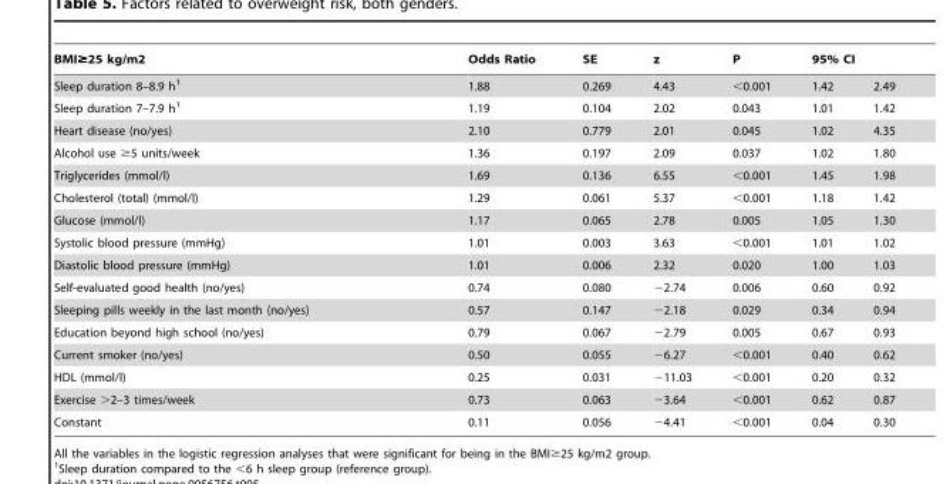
<table><thead><tr><td rowspan="2">BMI≥25 kg/m2 Sleep duration 8–8.9 h<sup>1</sup></td><td rowspan="2">Odds Ratio 1.88</td><td rowspan="2">SE 0.269</td><td rowspan="2">z 4.43</td><td rowspan="2">P &lt;0.001</td><td colspan="2">95% CI</td></tr><tr><td>1.42</td><td>2.49</td></tr></thead><tbody><tr><td>Sleep duration 7–7.9 h<sup>1</sup></td><td>1.19</td><td>0.104</td><td>2.02</td><td>0.043</td><td>1.01</td><td>1.42</td></tr><tr><td>Heart disease (no/yes)</td><td>2.10</td><td>0.779</td><td>2.01</td><td>0.045</td><td>1.02</td><td>4.35</td></tr><tr><td>Alcohol use ≥5 units/week</td><td>1.36</td><td>0.197</td><td>2.09</td><td>0.037</td><td>1.02</td><td>1.80</td></tr><tr><td>Triglycerides (mmol/l)</td><td>1.69</td><td>0.136</td><td>6.55</td><td>&lt;0.001</td><td>1.45</td><td>1.98</td></tr><tr><td>Cholesterol (total) (mmol/l)</td><td>1.29</td><td>0.061</td><td>5.37</td><td>&lt;0.001</td><td>1.18</td><td>1.42</td></tr><tr><td>Glucose (mmol/l)</td><td>1.17</td><td>0.065</td><td>2.78</td><td>0.005</td><td>1.05</td><td>1.30</td></tr><tr><td>Systolic blood pressure (mmHg)</td><td>1.01</td><td>0.003</td><td>3.63</td><td>&lt;0.001</td><td>1.01</td><td>1.02</td></tr><tr><td>Diastolic blood pressure (mmHg)</td><td>1.01</td><td>0.006</td><td>2.32</td><td>0.020</td><td>1.00</td><td>1.03</td></tr><tr><td>Self-evaluated good health (no/yes)</td><td>0.74</td><td>0.080</td><td>−2.74</td><td>0.006</td><td>0.60</td><td>0.92</td></tr><tr><td>Sleeping pills weekly in the last month (no/yes)</td><td>0.57</td><td>0.147</td><td>−2.18</td><td>0.029</td><td>0.34</td><td>0.94</td></tr><tr><td>Education beyond high school (no/yes)</td><td>0.79</td><td>0.067</td><td>−2.79</td><td>0.005</td><td>0.67</td><td>0.93</td></tr><tr><td>Current smoker (no/yes)</td><td>0.50</td><td>0.055</td><td>−6.27</td><td>&lt;0.001</td><td>0.40</td><td>0.62</td></tr><tr><td>HDL (mmol/l)</td><td>0.25</td><td>0.031</td><td>−11.03</td><td>&lt;0.001</td><td>0.20</td><td>0.32</td></tr><tr><td>Exercise &gt;2–3 times/week</td><td>0.73</td><td>0.063</td><td>−3.64</td><td>&lt;0.001</td><td>0.62</td><td>0.87</td></tr><tr><td>Constant</td><td>0.11</td><td>0.056</td><td>−4.41</td><td>&lt;0.001</td><td>0.04</td><td>0.30</td></tr></tbody></table>